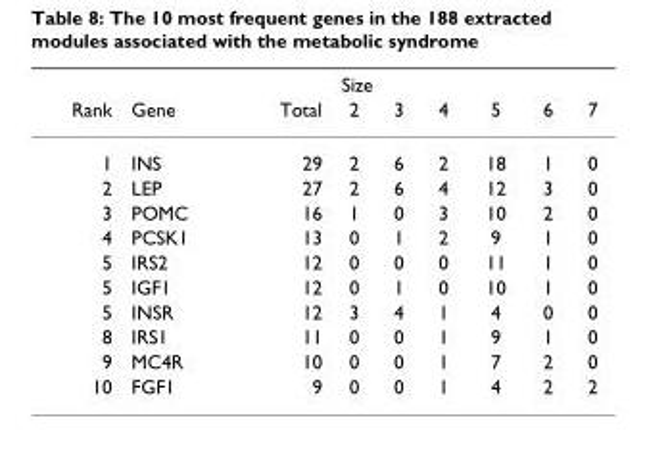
<table><thead><tr><td rowspan="2">Rank</td><td rowspan="2">Gene</td><td rowspan="2">Total</td><td colspan="6">Size</td></tr><tr><td>2</td><td>3</td><td>4</td><td>5</td><td>6</td><td>7</td></tr></thead><tbody><tr><td>1</td><td>INS</td><td>29</td><td>2</td><td>6</td><td>2</td><td>18</td><td>1</td><td>0</td></tr><tr><td>2</td><td>LEP</td><td>27</td><td>2</td><td>6</td><td>4</td><td>12</td><td>3</td><td>0</td></tr><tr><td>3</td><td>POMC</td><td>16</td><td>1</td><td>0</td><td>3</td><td>10</td><td>2</td><td>0</td></tr><tr><td>4</td><td>PCSK1</td><td>13</td><td>0</td><td>1</td><td>2</td><td>9</td><td>1</td><td>0</td></tr><tr><td>5</td><td>IRS2</td><td>12</td><td>0</td><td>0</td><td>0</td><td>11</td><td>1</td><td>0</td></tr><tr><td>5</td><td>IGF1</td><td>12</td><td>0</td><td>1</td><td>0</td><td>10</td><td>1</td><td>0</td></tr><tr><td>5</td><td>INSR</td><td>12</td><td>3</td><td>4</td><td>1</td><td>4</td><td>0</td><td>0</td></tr><tr><td>8</td><td>IRS1</td><td>11</td><td>0</td><td>0</td><td>1</td><td>9</td><td>1</td><td>0</td></tr><tr><td>9</td><td>MC4R</td><td>10</td><td>0</td><td>0</td><td>1</td><td>7</td><td>2</td><td>0</td></tr><tr><td>10</td><td>FGF1</td><td>9</td><td>0</td><td>0</td><td>1</td><td>4</td><td>2</td><td>2</td></tr></tbody></table>